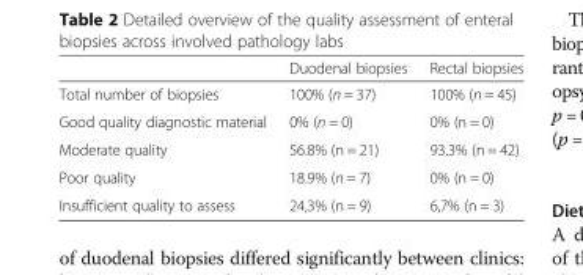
<table><thead><tr><td></td><td>Duodenal biopsies</td><td>Rectal biopsies</td></tr></thead><tbody><tr><td>Total number of biopsies</td><td>100% (n = 37)</td><td>100% (n = 45)</td></tr><tr><td>Good quality diagnostic material</td><td>0% (n = 0)</td><td>0% (n = 0)</td></tr><tr><td>Moderate quality</td><td>56.8% (n = 21)</td><td>93.3% (n = 42)</td></tr><tr><td>Poor quality</td><td>18.9% (n = 7)</td><td>0% (n = 0)</td></tr><tr><td>Insufficient quality to assess</td><td>24,3% (n = 9)</td><td>6,7% (n = 3)</td></tr></tbody></table>